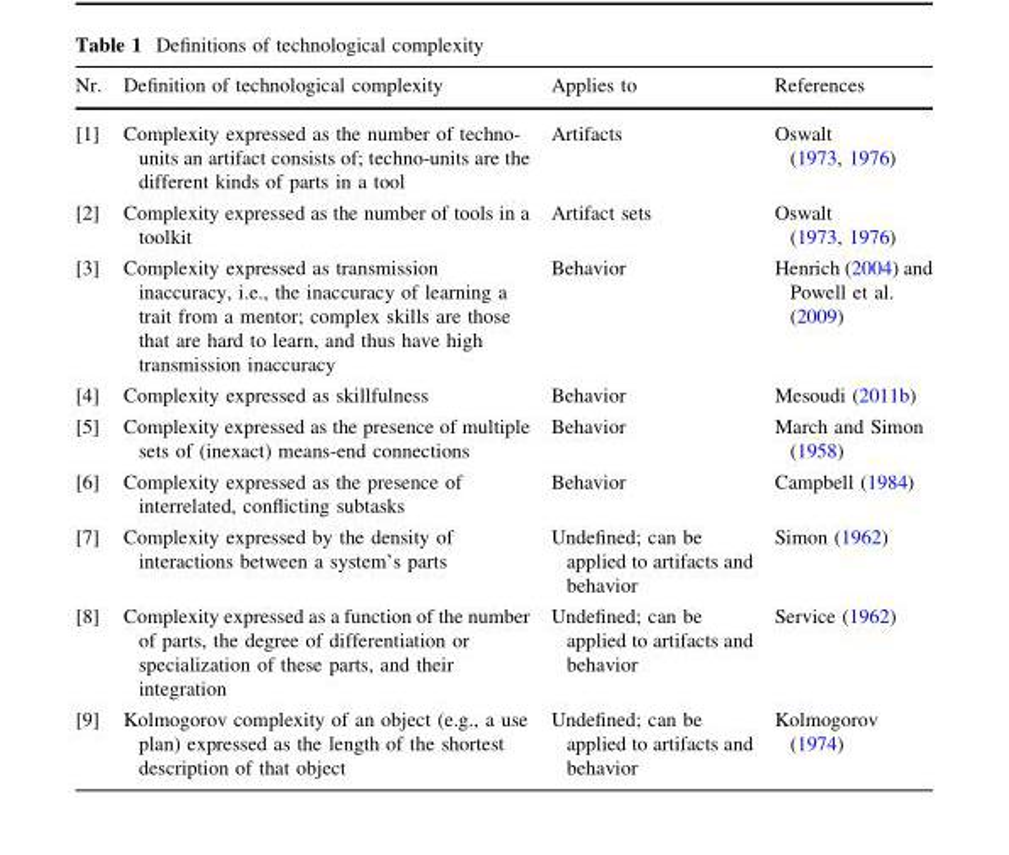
<table><thead><tr><td>Nr.</td><td>Definition of technological complexity</td><td>Applies to</td><td>References</td></tr></thead><tbody><tr><td>[1]</td><td>Complexity expressed as the number of techno- units an artifact consists of; techno-units are the different kinds of parts in a tool</td><td>Artifacts</td><td>Oswalt (1973, 1976)</td></tr><tr><td>[2]</td><td>Complexity expressed as the number of tools in a toolkit</td><td>Artifact sets</td><td>Oswalt (1973, 1976)</td></tr><tr><td>[3]</td><td>Complexity expressed as transmission inaccuracy, i.e., the inaccuracy of learning a trait from a mentor; complex skills are those that are hard to learn, and thus have high transmission inaccuracy</td><td>Behavior</td><td>Henrich (2004) and Powell et al. (2009)</td></tr><tr><td>[4]</td><td>Complexity expressed as skillfulness</td><td>Behavior</td><td>Mesoudi (2011b)</td></tr><tr><td>[5]</td><td>Complexity expressed as the presence of multiple sets of (inexact) means-end connections</td><td>Behavior</td><td>March and Simon (1958)</td></tr><tr><td>[6]</td><td>Complexity expressed as the presence of interrelated, conflicting subtasks</td><td>Behavior</td><td>Campbell (1984)</td></tr><tr><td>[7]</td><td>Complexity expressed by the density of interactions between a system’s parts</td><td>Undefined; can be applied to artifacts and behavior</td><td>Simon (1962)</td></tr><tr><td>[8]</td><td>Complexity expressed as a function of the number of parts, the degree of differentiation or specialization of these parts, and their integration</td><td>Undefined; can be applied to artifacts and behavior</td><td>Service (1962)</td></tr><tr><td>[9]</td><td>Kolmogorov complexity of an object (e.g., a use plan) expressed as the length of the shortest description of that object</td><td>Undefined; can be applied to artifacts and behavior</td><td>Kolmogorov (1974)</td></tr></tbody></table>